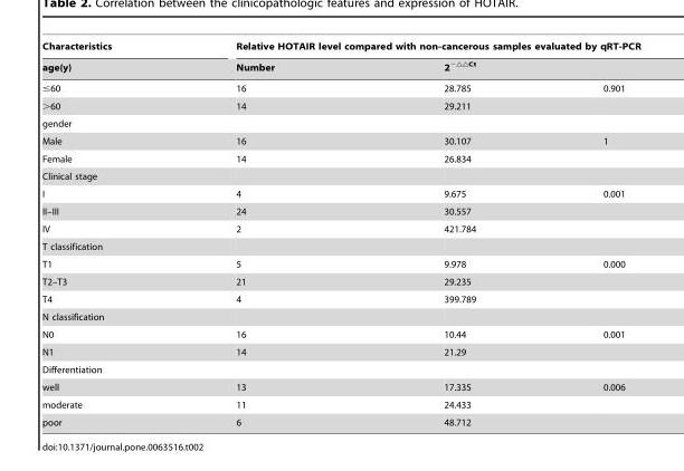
<table><thead><tr><td rowspan="2">Characteristics age(y)</td><td colspan="3">Relative HOTAIR level compared with non-cancerous samples evaluated by qRT-PCR</td></tr><tr><td>Number</td><td>2<sup>−△△Ct</sup></td><td></td></tr></thead><tbody><tr><td>≤60</td><td>16</td><td>28.785</td><td>0.901</td></tr><tr><td>&gt;60</td><td>14</td><td>29.211</td><td></td></tr><tr><td colspan="4">gender</td></tr><tr><td>Male</td><td>16</td><td>30.107</td><td>1</td></tr><tr><td>Female</td><td>14</td><td>26.834</td><td></td></tr><tr><td colspan="4">Clinical stage</td></tr><tr><td>I</td><td>4</td><td>9.675</td><td>0.001</td></tr><tr><td>II–III</td><td>24</td><td>30.557</td><td></td></tr><tr><td>IV</td><td>2</td><td>421.784</td><td></td></tr><tr><td colspan="4">T classification</td></tr><tr><td>T1</td><td>5</td><td>9.978</td><td>0.000</td></tr><tr><td>T2–T3</td><td>21</td><td>29.235</td><td></td></tr><tr><td>T4</td><td>4</td><td>399.789</td><td></td></tr><tr><td colspan="4">N classification</td></tr><tr><td>N0</td><td>16</td><td>10.44</td><td>0.001</td></tr><tr><td>N1</td><td>14</td><td>21.29</td><td></td></tr><tr><td colspan="4">Differentiation</td></tr><tr><td>well</td><td>13</td><td>17.335</td><td>0.006</td></tr><tr><td>moderate</td><td>11</td><td>24.433</td><td></td></tr><tr><td>poor</td><td>6</td><td>48.712</td><td></td></tr></tbody></table>